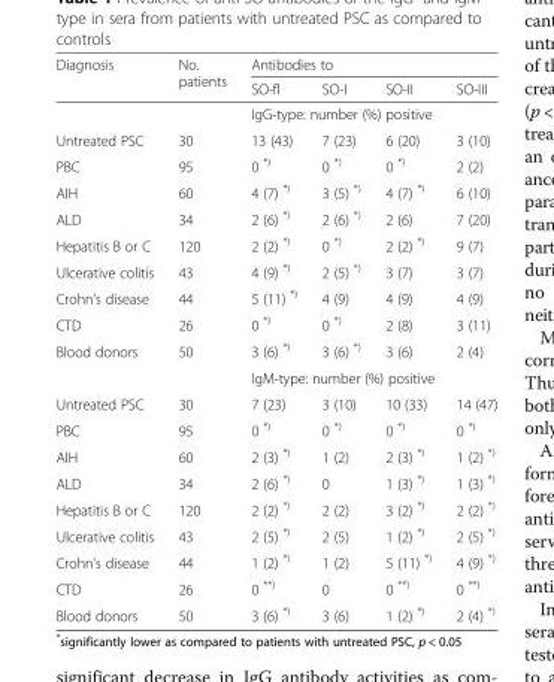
<table><thead><tr><td rowspan="2">Diagnosis</td><td rowspan="2">No. patients</td><td colspan="4">Antibodies to</td></tr><tr><td>SO-fl</td><td>SO-I</td><td>SO-II</td><td>SO-III</td></tr></thead><tbody><tr><td></td><td></td><td colspan="4">IgG-type: number (%) positive</td></tr><tr><td>Untreated PSC</td><td>30</td><td>13 (43)</td><td>7 (23)</td><td>6 (20)</td><td>3 (10)</td></tr><tr><td>PBC</td><td>95</td><td>0 <sup>*)</sup></td><td>0 <sup>*)</sup></td><td>0 <sup>*)</sup></td><td>2 (2)</td></tr><tr><td>AIH</td><td>60</td><td>4 (7) <sup>*)</sup></td><td>3 (5) <sup>*)</sup></td><td>4 (7) <sup>*)</sup></td><td>6 (10)</td></tr><tr><td>ALD</td><td>34</td><td>2 (6) <sup>*)</sup></td><td>2 (6) <sup>*)</sup></td><td>2 (6)</td><td>7 (20)</td></tr><tr><td>Hepatitis B or C</td><td>120</td><td>2 (2) <sup>*)</sup></td><td>0 <sup>*)</sup></td><td>2 (2) <sup>*)</sup></td><td>9 (7)</td></tr><tr><td>Ulcerative colitis</td><td>43</td><td>4 (9) <sup>*)</sup></td><td>2 (5) <sup>*)</sup></td><td>3 (7)</td><td>3 (7)</td></tr><tr><td>Crohn’s disease</td><td>44</td><td>5 (11) <sup>*)</sup></td><td>4 (9)</td><td>4 (9)</td><td>4 (9)</td></tr><tr><td>CTD</td><td>26</td><td>0 <sup>*)</sup></td><td>0 <sup>*)</sup></td><td>2 (8)</td><td>3 (11)</td></tr><tr><td rowspan="2">Blood donors</td><td>50</td><td>3 (6) <sup>*)</sup></td><td>3 (6) <sup>*)</sup></td><td>3 (6)</td><td>2 (4)</td></tr><tr><td></td><td colspan="4">IgM-type: number (%) positive</td></tr><tr><td>Untreated PSC</td><td>30</td><td>7 (23)</td><td>3 (10)</td><td>10 (33)</td><td>14 (47)</td></tr><tr><td>PBC</td><td>95</td><td>0 <sup>*)</sup></td><td>0 <sup>*)</sup></td><td>0 <sup>*)</sup></td><td>0 <sup>*)</sup></td></tr><tr><td>AIH</td><td>60</td><td>2 (3) <sup>*)</sup></td><td>1 (2)</td><td>2 (3) <sup>*)</sup></td><td>1 (2) <sup>*)</sup></td></tr><tr><td>ALD</td><td>34</td><td>2 (6) <sup>*)</sup></td><td>0</td><td>1 (3) <sup>*)</sup></td><td>1 (3) <sup>*)</sup></td></tr><tr><td>Hepatitis B or C</td><td>120</td><td>2 (2) <sup>*)</sup></td><td>2 (2)</td><td>3 (2) <sup>*)</sup></td><td>2 (2) <sup>*)</sup></td></tr><tr><td>Ulcerative colitis</td><td>43</td><td>2 (5) <sup>*)</sup></td><td>2 (5)</td><td>1 (2) <sup>*)</sup></td><td>2 (5) <sup>*)</sup></td></tr><tr><td>Crohn’s disease</td><td>44</td><td>1 (2) <sup>*)</sup></td><td>1 (2)</td><td>5 (11) <sup>*)</sup></td><td>4 (9) <sup>*)</sup></td></tr><tr><td>CTD</td><td>26</td><td>0 <sup>**)</sup></td><td>0</td><td>0 <sup>**)</sup></td><td>0 <sup>**)</sup></td></tr><tr><td>Blood donors</td><td>50</td><td>3 (6) <sup>*)</sup></td><td>3 (6)</td><td>1 (2) <sup>*)</sup></td><td>2 (4) <sup>*)</sup></td></tr></tbody></table>